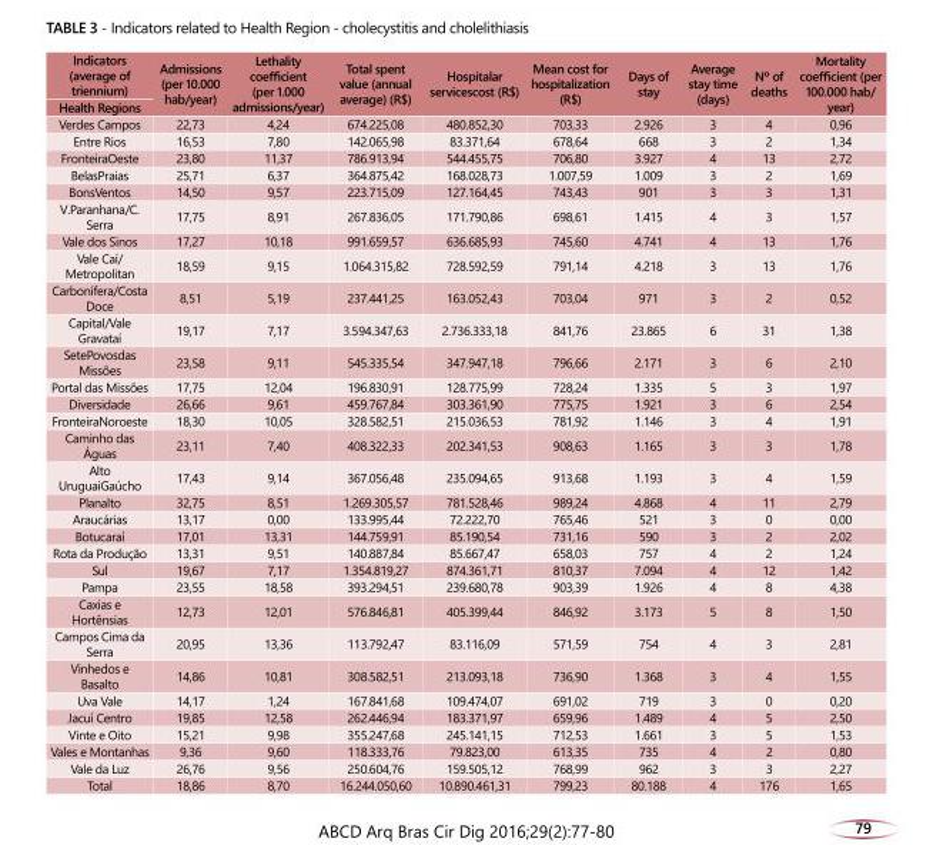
<table><tbody><tr><td>Indicators (average of triennium)</td><td rowspan="2">Admissions (per 10.000 hab/year)</td><td rowspan="2">Lethality coefficient (per 1.000 admissions/year)</td><td rowspan="2">Total spent value (annual average) (R$)</td><td rowspan="2">Hospitalar servicescost (R$)</td><td rowspan="2">Mean cost for hospitalization (R$)</td><td rowspan="2">Days of stay</td><td rowspan="2">Average stay time (days)</td><td rowspan="2">Nº of deaths</td><td rowspan="2">Mortality coefficient (per 100.000 hab/ year)</td></tr><tr><td>Health Regions</td></tr><tr><td>Verdes Campos</td><td>22,73</td><td>4,24</td><td>674.225,08</td><td>480.852,30</td><td>703,33</td><td>2.926</td><td>3</td><td>4</td><td>0,96</td></tr><tr><td>Entre Rios</td><td>16,53</td><td>7,80</td><td>142.065,98</td><td>83.371,64</td><td>678,64</td><td>668</td><td>3</td><td>2</td><td>1,34</td></tr><tr><td>FronteiraOeste</td><td>23,80</td><td>11,37</td><td>786.913,94</td><td>544.455,75</td><td>706,80</td><td>3.927</td><td>4</td><td>13</td><td>2,72</td></tr><tr><td>BelasPraias</td><td>25,71</td><td>6,37</td><td>364.875,42</td><td>168.028,73</td><td>1.007,59</td><td>1.009</td><td>3</td><td>2</td><td>1,69</td></tr><tr><td>BonsVentos</td><td>14,50</td><td>9,57</td><td>223.715,09</td><td>127.164,45</td><td>743,43</td><td>901</td><td>3</td><td>3</td><td>1,31</td></tr><tr><td>V.Paranhana/C. Serra</td><td>17,75</td><td>8,91</td><td>267.836,05</td><td>171.790,86</td><td>698,61</td><td>1.415</td><td>4</td><td>3</td><td>1,57</td></tr><tr><td>Vale dos Sinos</td><td>17,27</td><td>10,18</td><td>991.659,57</td><td>636.685,93</td><td>745,60</td><td>4.741</td><td>4</td><td>13</td><td>1,76</td></tr><tr><td>Vale Caí/ Metropolitan</td><td>18,59</td><td>9,15</td><td>1.064.315,82</td><td>728.592,59</td><td>791,14</td><td>4.218</td><td>3</td><td>13</td><td>1,76</td></tr><tr><td>Carbonífera/Costa Doce</td><td>8,51</td><td>5,19</td><td>237.441,25</td><td>163.052,43</td><td>703,04</td><td>971</td><td>3</td><td>2</td><td>0,52</td></tr><tr><td>Capital/Vale Gravataí</td><td>19,17</td><td>7,17</td><td>3.594.347,63</td><td>2.736.333,18</td><td>841,76</td><td>23.865</td><td>6</td><td>31</td><td>1,38</td></tr><tr><td>SetePovosdas Missões</td><td>23,58</td><td>9,11</td><td>545.335,54</td><td>347.947,18</td><td>796,66</td><td>2.171</td><td>3</td><td>6</td><td>2,10</td></tr><tr><td>Portal das Missões</td><td>17,75</td><td>12,04</td><td>196.830,91</td><td>128.775,99</td><td>728,24</td><td>1.335</td><td>5</td><td>3</td><td>1,97</td></tr><tr><td>Diversidade</td><td>26,66</td><td>9,61</td><td>459.767,84</td><td>303.361,90</td><td>775,75</td><td>1.921</td><td>3</td><td>6</td><td>2,54</td></tr><tr><td>FronteiraNoroeste</td><td>18,30</td><td>10,05</td><td>328.582,51</td><td>215.036,53</td><td>781,92</td><td>1.146</td><td>3</td><td>4</td><td>1,91</td></tr><tr><td>Caminho das Águas</td><td>23,11</td><td>7,40</td><td>408.322,33</td><td>202.341,53</td><td>908,63</td><td>1.165</td><td>3</td><td>3</td><td>1,78</td></tr><tr><td>Alto UruguaiGaúcho</td><td>17,43</td><td>9,14</td><td>367.056,48</td><td>235.094,65</td><td>913,68</td><td>1.193</td><td>3</td><td>4</td><td>1,59</td></tr><tr><td>Planalto</td><td>32,75</td><td>8,51</td><td>1.269.305,57</td><td>781.528,46</td><td>989,24</td><td>4.868</td><td>4</td><td>11</td><td>2,79</td></tr><tr><td>Araucárias</td><td>13,17</td><td>0,00</td><td>133.995,44</td><td>72.222,70</td><td>765,46</td><td>521</td><td>3</td><td>0</td><td>0,00</td></tr><tr><td>Botucaraí</td><td>17,01</td><td>13,31</td><td>144.759,91</td><td>85.190,54</td><td>731,16</td><td>590</td><td>3</td><td>2</td><td>2,02</td></tr><tr><td>Rota da Produção</td><td>13,31</td><td>9,51</td><td>140.887,84</td><td>85.667,47</td><td>658,03</td><td>757</td><td>4</td><td>2</td><td>1,24</td></tr><tr><td>Sul</td><td>19,67</td><td>7,17</td><td>1.354.819,27</td><td>874.361,71</td><td>810,37</td><td>7.094</td><td>4</td><td>12</td><td>1,42</td></tr><tr><td>Pampa</td><td>23,55</td><td>18,58</td><td>393.294,51</td><td>239.680,78</td><td>903,39</td><td>1.926</td><td>4</td><td>8</td><td>4,38</td></tr><tr><td>Caxias e Hortênsias</td><td>12,73</td><td>12,01</td><td>576.846,81</td><td>405.399,44</td><td>846,92</td><td>3.173</td><td>5</td><td>8</td><td>1,50</td></tr><tr><td>Campos Cima da Serra</td><td>20,95</td><td>13,36</td><td>113.792,47</td><td>83.116,09</td><td>571,59</td><td>754</td><td>4</td><td>3</td><td>2,81</td></tr><tr><td>Vinhedos e Basalto</td><td>14,86</td><td>10,81</td><td>308.582,51</td><td>213.093,18</td><td>736,90</td><td>1.368</td><td>3</td><td>4</td><td>1,55</td></tr><tr><td>Uva Vale</td><td>14,17</td><td>1,24</td><td>167.841,68</td><td>109.474,07</td><td>691,02</td><td>719</td><td>3</td><td>0</td><td>0,20</td></tr><tr><td>Jacuí Centro</td><td>19,85</td><td>12,58</td><td>262.446,94</td><td>183.371,97</td><td>659,96</td><td>1.489</td><td>4</td><td>5</td><td>2,50</td></tr><tr><td>Vinte e Oito</td><td>15,21</td><td>9,98</td><td>355.247,68</td><td>245.141,15</td><td>712,53</td><td>1.661</td><td>3</td><td>5</td><td>1,53</td></tr><tr><td>Vales e Montanhas</td><td>9,36</td><td>9,60</td><td>118.333,76</td><td>79.823,00</td><td>613,35</td><td>735</td><td>4</td><td>2</td><td>0,80</td></tr><tr><td>Vale da Luz</td><td>26,76</td><td>9,56</td><td>250.604,76</td><td>159.505,12</td><td>768,99</td><td>962</td><td>3</td><td>3</td><td>2,27</td></tr><tr><td>Total</td><td>18,86</td><td>8,70</td><td>16.244.050,60</td><td>10.890.461,31</td><td>799,23</td><td>80.188</td><td>4</td><td>176</td><td>1,65</td></tr></tbody></table>